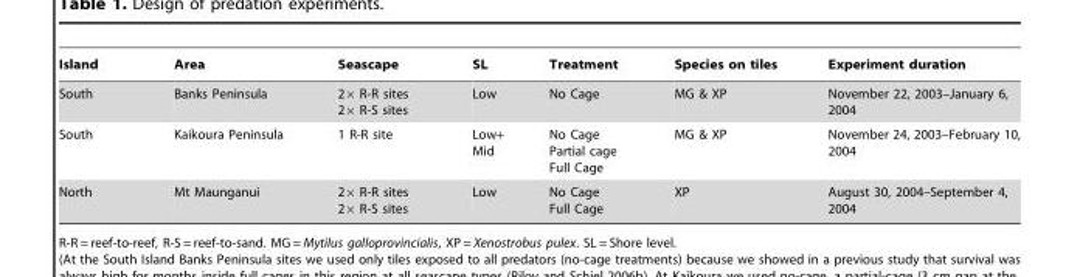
<table><thead><tr><td>Island</td><td>Area</td><td>Seascape</td><td>SL</td><td>Treatment</td><td>Species on tiles</td><td>Experiment duration</td></tr></thead><tbody><tr><td>South</td><td>Banks Peninsula</td><td>2× R-R sites 2× R-S sites</td><td>Low</td><td>No Cage</td><td>MG &amp; XP</td><td>November 22, 2003–January 6, 2004</td></tr><tr><td>South</td><td>Kaikoura Peninsula</td><td>1 R-R site</td><td>Low+ Mid</td><td>No Cage Partial cage Full Cage</td><td>MG &amp; XP</td><td>November 24, 2003–February 10, 2004</td></tr><tr><td>North</td><td>Mt Maunganui</td><td>2× R-R sites 2× R-S sites</td><td>Low</td><td>No Cage Full Cage</td><td>XP</td><td>August 30, 2004–September 4, 2004</td></tr></tbody></table>